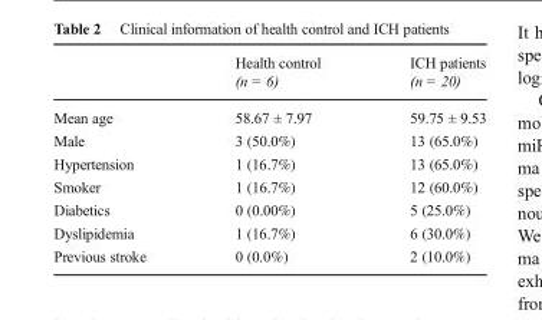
<table><thead><tr><td rowspan="2"></td><td rowspan="2">Health control (n = 6)</td><td rowspan="2">ICH patients (n = 20)</td></tr><tr></tr></thead><tbody><tr><td>Mean age</td><td>58.67 ± 7.97</td><td>59.75 ± 9.53</td></tr><tr><td>Male</td><td>3 (50.0%)</td><td>13 (65.0%)</td></tr><tr><td>Hypertension</td><td>1 (16.7%)</td><td>13 (65.0%)</td></tr><tr><td>Smoker</td><td>1 (16.7%)</td><td>12 (60.0%)</td></tr><tr><td>Diabetics</td><td>0 (0.00%)</td><td>5 (25.0%)</td></tr><tr><td>Dyslipidemia</td><td>1 (16.7%)</td><td>6 (30.0%)</td></tr><tr><td>Previous stroke</td><td>0 (0.0%)</td><td>2 (10.0%)</td></tr></tbody></table>